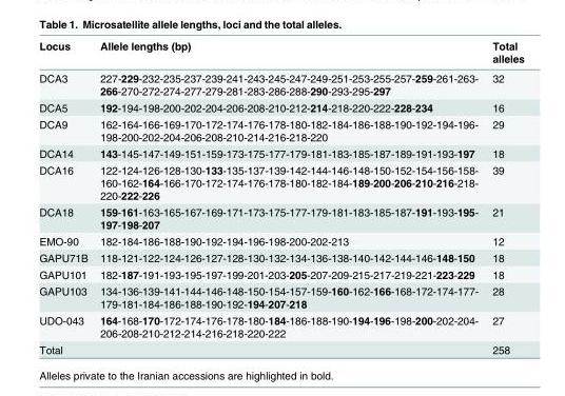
<table><thead><tr><td>Locus</td><td>Allele lengths (bp)</td><td>Total alleles</td></tr></thead><tbody><tr><td>DCA3</td><td>227-229-232-235-237-239-241-243-245-247-249-251-253-255-257-259-261-263- 266-270-272-274-277-279-281-283-286-288-290-293-295-297</td><td>32</td></tr><tr><td>DCA5</td><td>192-194-198-200-202-204-206-208-210-212-214-218-220-222-228-234</td><td>16</td></tr><tr><td>DCA9</td><td>162-164-166-169-170-172-174-176-178-180-182-184-186-188-190-192-194-196- 198-200-202-204-206-208-210-214-216-218-220</td><td>29</td></tr><tr><td>DCA14</td><td>143-145-147-149-151-159-173-175-177-179-181-183-185-187-189-191-193-197</td><td>18</td></tr><tr><td>DCA16</td><td>122-124-126-128-130-133-135-137-139-142-144-146-148-150-152-154-156-158- 160-162-164-166-170-172-174-176-178-180-182-184-189-200-206-210-216-218- 220-222-226</td><td>39</td></tr><tr><td>DCA18</td><td>159-161-163-165-167-169-171-173-175-177-179-181-183-185-187-191-193-195- 197-198-207</td><td>21</td></tr><tr><td>EMO-90</td><td>182-184-186-188-190-192-194-196-198-200-202-213</td><td>12</td></tr><tr><td>GAPU71B</td><td>118-121-122-124-126-127-128-130-132-134-136-138-140-142-144-146-148-150</td><td>18</td></tr><tr><td>GAPU101</td><td>182-187-191-193-195-197-199-201-203-205-207-209-215-217-219-221-223-229</td><td>18</td></tr><tr><td>GAPU103</td><td>134-136-139-141-144-146-148-150-154-157-159-160-162-166-168-172-174-177- 179-181-184-186-188-190-192-194-207-218</td><td>28</td></tr><tr><td>UDO-043</td><td>164-168-170-172-174-176-178-180-184-186-188-190-194-196-198-200-202-204- 206-208-210-212-214-216-218-220-222</td><td>27</td></tr><tr><td>Total</td><td></td><td>258</td></tr></tbody></table>